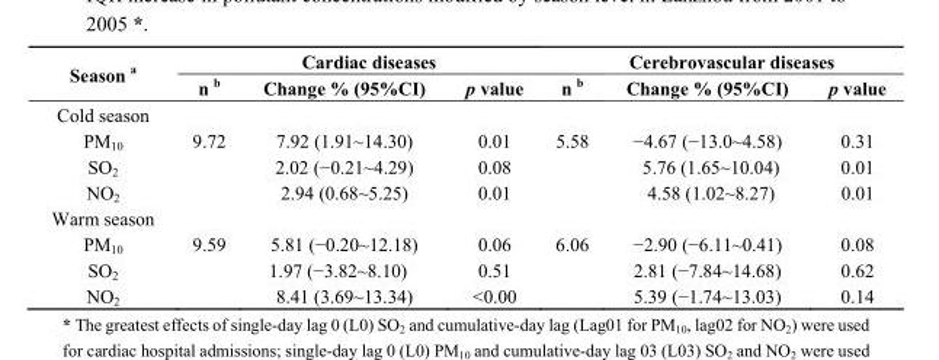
<table><thead><tr><td rowspan="2">Season <sup>a</sup></td><td colspan="3">Cardiac diseases</td><td colspan="3">Cerebrovascular diseases</td></tr><tr><td>n <sup>b</sup></td><td>Change % (95%CI)</td><td>p value</td><td>n <sup>b</sup></td><td>Change % (95%CI)</td><td>p value</td></tr></thead><tbody><tr><td colspan="7">Cold season</td></tr><tr><td>PM<sub>10</sub></td><td>9.72</td><td>7.92 (1.91~14.30)</td><td>0.01</td><td>5.58</td><td>−4.67 (−13.0~4.58)</td><td>0.31</td></tr><tr><td>SO<sub>2</sub></td><td></td><td>2.02 (−0.21~4.29)</td><td>0.08</td><td></td><td>5.76 (1.65~10.04)</td><td>0.01</td></tr><tr><td>NO<sub>2</sub></td><td></td><td>2.94 (0.68~5.25)</td><td>0.01</td><td></td><td>4.58 (1.02~8.27)</td><td>0.01</td></tr><tr><td colspan="7">Warm season</td></tr><tr><td>PM<sub>10</sub></td><td>9.59</td><td>5.81 (−0.20~12.18)</td><td>0.06</td><td>6.06</td><td>−2.90 (−6.11~0.41)</td><td>0.08</td></tr><tr><td>SO<sub>2</sub></td><td></td><td>1.97 (−3.82~8.10)</td><td>0.51</td><td></td><td>2.81 (−7.84~14.68)</td><td>0.62</td></tr><tr><td>NO<sub>2</sub></td><td></td><td>8.41 (3.69~13.34)</td><td>&lt;0.00</td><td></td><td>5.39 (−1.74~13.03)</td><td>0.14</td></tr></tbody></table>